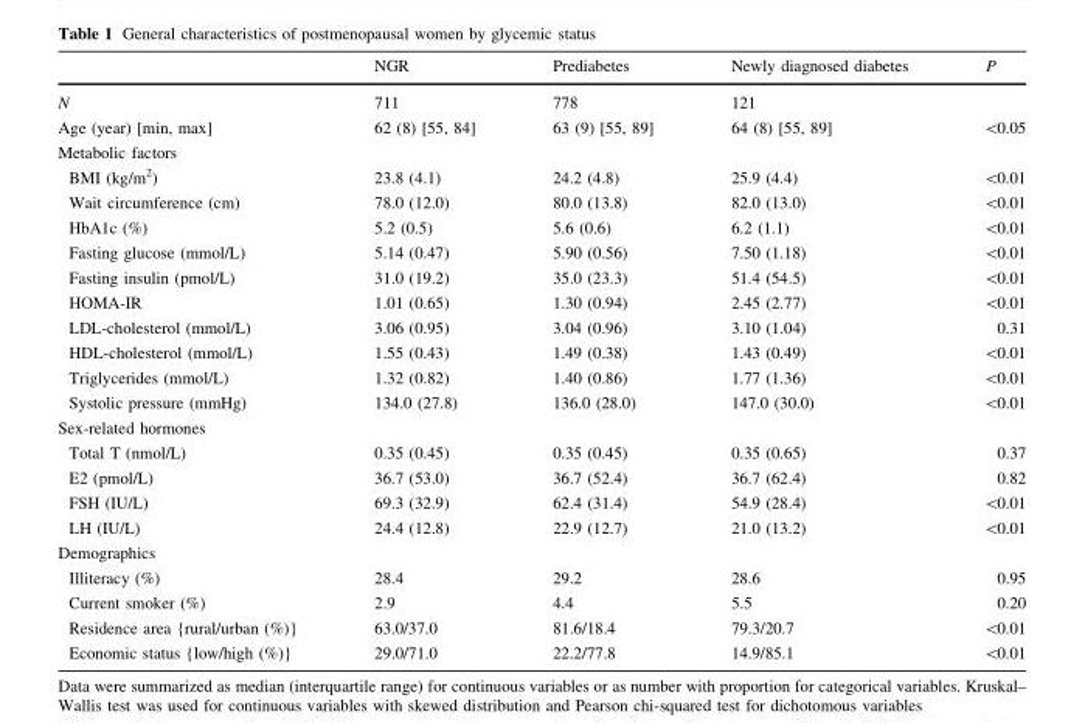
<table><thead><tr><td></td><td>NGR</td><td>Prediabetes</td><td>Newly diagnosed diabetes</td><td>P</td></tr></thead><tbody><tr><td>N</td><td>711</td><td>778</td><td>121</td><td></td></tr><tr><td>Age (year) [min, max]</td><td>62 (8) [55, 84]</td><td>63 (9) [55, 89]</td><td>64 (8) [55, 89]</td><td>&lt;0.05</td></tr><tr><td colspan="5">Metabolic factors</td></tr><tr><td>BMI (kg/m<sup>2</sup>)</td><td>23.8 (4.1)</td><td>24.2 (4.8)</td><td>25.9 (4.4)</td><td>&lt;0.01</td></tr><tr><td>Wait circumference (cm)</td><td>78.0 (12.0)</td><td>80.0 (13.8)</td><td>82.0 (13.0)</td><td>&lt;0.01</td></tr><tr><td>HbA1c (%)</td><td>5.2 (0.5)</td><td>5.6 (0.6)</td><td>6.2 (1.1)</td><td>&lt;0.01</td></tr><tr><td>Fasting glucose (mmol/L)</td><td>5.14 (0.47)</td><td>5.90 (0.56)</td><td>7.50 (1.18)</td><td>&lt;0.01</td></tr><tr><td>Fasting insulin (pmol/L)</td><td>31.0 (19.2)</td><td>35.0 (23.3)</td><td>51.4 (54.5)</td><td>&lt;0.01</td></tr><tr><td>HOMA-IR</td><td>1.01 (0.65)</td><td>1.30 (0.94)</td><td>2.45 (2.77)</td><td>&lt;0.01</td></tr><tr><td>LDL-cholesterol (mmol/L)</td><td>3.06 (0.95)</td><td>3.04 (0.96)</td><td>3.10 (1.04)</td><td>0.31</td></tr><tr><td>HDL-cholesterol (mmol/L)</td><td>1.55 (0.43)</td><td>1.49 (0.38)</td><td>1.43 (0.49)</td><td>&lt;0.01</td></tr><tr><td>Triglycerides (mmol/L)</td><td>1.32 (0.82)</td><td>1.40 (0.86)</td><td>1.77 (1.36)</td><td>&lt;0.01</td></tr><tr><td>Systolic pressure (mmHg)</td><td>134.0 (27.8)</td><td>136.0 (28.0)</td><td>147.0 (30.0)</td><td>&lt;0.01</td></tr><tr><td colspan="5">Sex-related hormones</td></tr><tr><td>Total T (nmol/L)</td><td>0.35 (0.45)</td><td>0.35 (0.45)</td><td>0.35 (0.65)</td><td>0.37</td></tr><tr><td>E2 (pmol/L)</td><td>36.7 (53.0)</td><td>36.7 (52.4)</td><td>36.7 (62.4)</td><td>0.82</td></tr><tr><td>FSH (IU/L)</td><td>69.3 (32.9)</td><td>62.4 (31.4)</td><td>54.9 (28.4)</td><td>&lt;0.01</td></tr><tr><td>LH (IU/L)</td><td>24.4 (12.8)</td><td>22.9 (12.7)</td><td>21.0 (13.2)</td><td>&lt;0.01</td></tr><tr><td colspan="5">Demographics</td></tr><tr><td>Illiteracy (%)</td><td>28.4</td><td>29.2</td><td>28.6</td><td>0.95</td></tr><tr><td>Current smoker (%)</td><td>2.9</td><td>4.4</td><td>5.5</td><td>0.20</td></tr><tr><td>Residence area {rural/urban (%)}</td><td>63.0/37.0</td><td>81.6/18.4</td><td>79.3/20.7</td><td>&lt;0.01</td></tr><tr><td>Economic status {low/high (%)}</td><td>29.0/71.0</td><td>22.2/77.8</td><td>14.9/85.1</td><td>&lt;0.01</td></tr></tbody></table>